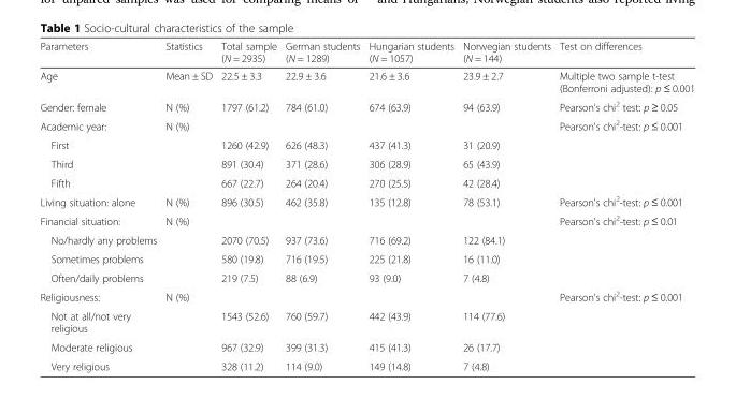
<table><thead><tr><td>Parameters</td><td>Statistics</td><td>Total sample (N = 2935)</td><td>German students (N = 1289)</td><td>Hungarian students (N = 1057)</td><td>Norwegian students (N = 144)</td><td>Test on differences</td></tr></thead><tbody><tr><td>Age</td><td>Mean ± SD</td><td>22.5 ± 3.3</td><td>22.9 ± 3.6</td><td>21.6 ± 3.6</td><td>23.9 ± 2.7</td><td>Multiple two sample t-test (Bonferroni adjusted): p ≤ 0.001</td></tr><tr><td>Gender: female</td><td>N (%)</td><td>1797 (61.2)</td><td>784 (61.0)</td><td>674 (63.9)</td><td>94 (63.9)</td><td>Pearson&#x27;s chi<sup>2</sup> test: p ≥ 0.05</td></tr><tr><td>Academic year:</td><td>N (%)</td><td></td><td></td><td></td><td></td><td rowspan="4">Pearson&#x27;s chi<sup>2</sup>-test: p ≤ 0.001</td></tr><tr><td>First</td><td></td><td>1260 (42.9)</td><td>626 (48.3)</td><td>437 (41.3)</td><td>31 (20.9)</td></tr><tr><td>Third</td><td></td><td>891 (30.4)</td><td>371 (28.6)</td><td>306 (28.9)</td><td>65 (43.9)</td></tr><tr><td>Fifth</td><td></td><td>667 (22.7)</td><td>264 (20.4)</td><td>270 (25.5)</td><td>42 (28.4)</td></tr><tr><td>Living situation: alone</td><td>N (%)</td><td>896 (30.5)</td><td>462 (35.8)</td><td>135 (12.8)</td><td>78 (53.1)</td><td>Pearson&#x27;s chi<sup>2</sup>-test: p ≤ 0.001</td></tr><tr><td>Financial situation:</td><td>N (%)</td><td></td><td></td><td></td><td></td><td rowspan="4">Pearson&#x27;s chi<sup>2</sup>-test: p ≤ 0.01</td></tr><tr><td>No/hardly any problems</td><td></td><td>2070 (70.5)</td><td>937 (73.6)</td><td>716 (69.2)</td><td>122 (84.1)</td></tr><tr><td>Sometimes problems</td><td></td><td>580 (19.8)</td><td>716 (19.5)</td><td>225 (21.8)</td><td>16 (11.0)</td></tr><tr><td>Often/daily problems</td><td></td><td>219 (7.5)</td><td>88 (6.9)</td><td>93 (9.0)</td><td>7 (4.8)</td></tr><tr><td>Religiousness:</td><td>N (%)</td><td></td><td></td><td></td><td></td><td rowspan="4">Pearson&#x27;s chi<sup>2</sup>-test: p ≤ 0.001</td></tr><tr><td>Not at all/not very religious</td><td></td><td>1543 (52.6)</td><td>760 (59.7)</td><td>442 (43.9)</td><td>114 (77.6)</td></tr><tr><td>Moderate religious</td><td></td><td>967 (32.9)</td><td>399 (31.3)</td><td>415 (41.3)</td><td>26 (17.7)</td></tr><tr><td>Very religious</td><td></td><td>328 (11.2)</td><td>114 (9.0)</td><td>149 (14.8)</td><td>7 (4.8)</td></tr></tbody></table>